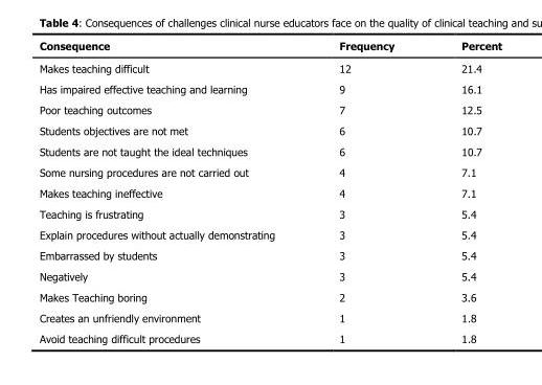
<table><thead><tr><td>Consequence</td><td>Frequency</td><td>Percent</td></tr></thead><tbody><tr><td>Makes teaching difficult</td><td>12</td><td>21.4</td></tr><tr><td>Has impaired effective teaching and learning</td><td>9</td><td>16.1</td></tr><tr><td>Poor teaching outcomes</td><td>7</td><td>12.5</td></tr><tr><td>Students objectives are not met</td><td>6</td><td>10.7</td></tr><tr><td>Students are not taught the ideal techniques</td><td>6</td><td>10.7</td></tr><tr><td>Some nursing procedures are not carried out</td><td>4</td><td>7.1</td></tr><tr><td>Makes teaching ineffective</td><td>4</td><td>7.1</td></tr><tr><td>Teaching is frustrating</td><td>3</td><td>5.4</td></tr><tr><td>Explain procedures without actually demonstrating</td><td>3</td><td>5.4</td></tr><tr><td>Embarrassed by students</td><td>3</td><td>5.4</td></tr><tr><td>Negatively</td><td>3</td><td>5.4</td></tr><tr><td>Makes Teaching boring</td><td>2</td><td>3.6</td></tr><tr><td>Creates an unfriendly environment</td><td>1</td><td>1.8</td></tr><tr><td>Avoid teaching difficult procedures</td><td>1</td><td>1.8</td></tr></tbody></table>